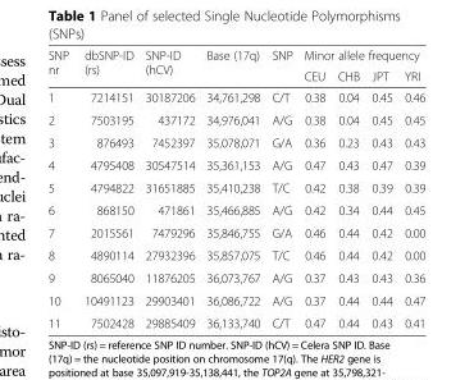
<table><thead><tr><td rowspan="2">SNP nr</td><td rowspan="2">dbSNP-ID (rs)</td><td rowspan="2">SNP-ID (hCV)</td><td rowspan="2">Base (17q)</td><td rowspan="2">SNP</td><td colspan="4">Minor allele frequency</td></tr><tr><td>CEU</td><td>CHB</td><td>JPT</td><td>YRI</td></tr></thead><tbody><tr><td>1</td><td>7214151</td><td>30187206</td><td>34,761,298</td><td>C/T</td><td>0.38</td><td>0.04</td><td>0.45</td><td>0.46</td></tr><tr><td>2</td><td>7503195</td><td>437172</td><td>34,976,041</td><td>A/G</td><td>0.38</td><td>0.04</td><td>0.45</td><td>0.45</td></tr><tr><td>3</td><td>876493</td><td>7452397</td><td>35,078,071</td><td>G/A</td><td>0.36</td><td>0.23</td><td>0.43</td><td>0.43</td></tr><tr><td>4</td><td>4795408</td><td>30547514</td><td>35,361,153</td><td>A/G</td><td>0.47</td><td>0.43</td><td>0.47</td><td>0.39</td></tr><tr><td>5</td><td>4794822</td><td>31651885</td><td>35,410,238</td><td>T/C</td><td>0.42</td><td>0.38</td><td>0.39</td><td>0.39</td></tr><tr><td>6</td><td>868150</td><td>471861</td><td>35,466,885</td><td>A/G</td><td>0.42</td><td>0.34</td><td>0.44</td><td>0.45</td></tr><tr><td>7</td><td>2015561</td><td>7479296</td><td>35,846,755</td><td>G/A</td><td>0.46</td><td>0.44</td><td>0.42</td><td>0.00</td></tr><tr><td>8</td><td>4890114</td><td>27932396</td><td>35,857,075</td><td>T/C</td><td>0.46</td><td>0.44</td><td>0.42</td><td>0.00</td></tr><tr><td>9</td><td>8065040</td><td>11876205</td><td>36,073,767</td><td>A/G</td><td>0.37</td><td>0.43</td><td>0.43</td><td>0.36</td></tr><tr><td>10</td><td>10491123</td><td>29903401</td><td>36,086,722</td><td>A/G</td><td>0.37</td><td>0.44</td><td>0.44</td><td>0.47</td></tr><tr><td>11</td><td>7502428</td><td>29885409</td><td>36,133,740</td><td>C/T</td><td>0.47</td><td>0.44</td><td>0.43</td><td>0.41</td></tr></tbody></table>